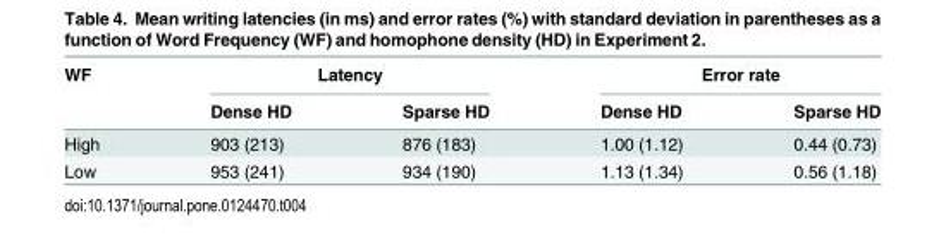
<table><thead><tr><td rowspan="2">WF</td><td colspan="2">Latency</td><td colspan="2">Error rate</td></tr><tr><td>Dense HD</td><td>Sparse HD</td><td>Dense HD</td><td>Sparse HD</td></tr></thead><tbody><tr><td>High</td><td>903 (213)</td><td>876 (183)</td><td>1.00 (1.12)</td><td>0.44 (0.73)</td></tr><tr><td>Low</td><td>953 (241)</td><td>934 (190)</td><td>1.13 (1.34)</td><td>0.56 (1.18)</td></tr></tbody></table>